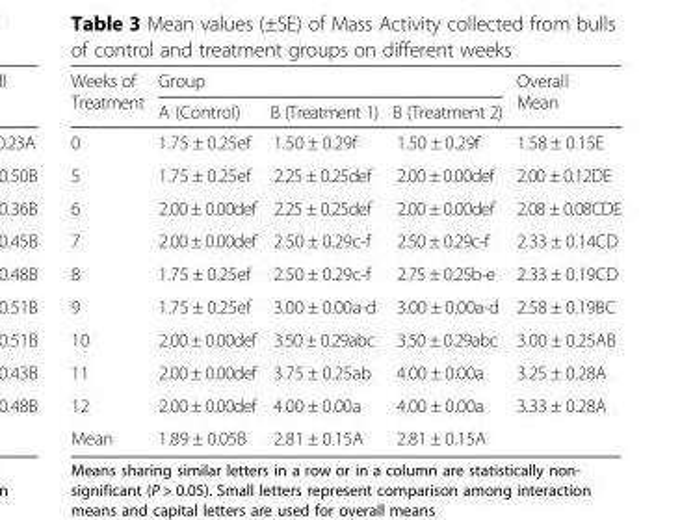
<table><thead><tr><td rowspan="2">Weeks of Treatment</td><td colspan="3">Group</td><td rowspan="2">Overall Mean</td></tr><tr><td>A (Control)</td><td>B (Treatment 1)</td><td>B (Treatment 2)</td></tr></thead><tbody><tr><td>0</td><td>1.75 ± 0.25ef</td><td>1.50 ± 0.29f</td><td>1.50 ± 0.29f</td><td>1.58 ± 0.15E</td></tr><tr><td>5</td><td>1.75 ± 0.25ef</td><td>2.25 ± 0.25def</td><td>2.00 ± 0.00def</td><td>2.00 ± 0.12DE</td></tr><tr><td>6</td><td>2.00 ± 0.00def</td><td>2.25 ± 0.25def</td><td>2.00 ± 0.00def</td><td>2.08 ± 0.08CDE</td></tr><tr><td>7</td><td>2.00 ± 0.00def</td><td>2.50 ± 0.29c-f</td><td>2.50 ± 0.29c-f</td><td>2.33 ± 0.14CD</td></tr><tr><td>8</td><td>1.75 ± 0.25ef</td><td>2.50 ± 0.29c-f</td><td>2.75 ± 0.25b-e</td><td>2.33 ± 0.19CD</td></tr><tr><td>9</td><td>1.75 ± 0.25ef</td><td>3.00 ± 0.00a-d</td><td>3.00 ± 0.00a-d</td><td>2.58 ± 0.19BC</td></tr><tr><td>10</td><td>2.00 ± 0.00def</td><td>3.50 ± 0.29abc</td><td>3.50 ± 0.29abc</td><td>3.00 ± 0.25AB</td></tr><tr><td>11</td><td>2.00 ± 0.00def</td><td>3.75 ± 0.25ab</td><td>4.00 ± 0.00a</td><td>3.25 ± 0.28A</td></tr><tr><td>12</td><td>2.00 ± 0.00def</td><td>4.00 ± 0.00a</td><td>4.00 ± 0.00a</td><td>3.33 ± 0.28A</td></tr><tr><td>Mean</td><td>1.89 ± 0.05B</td><td>2.81 ± 0.15A</td><td>2.81 ± 0.15A</td><td></td></tr></tbody></table>